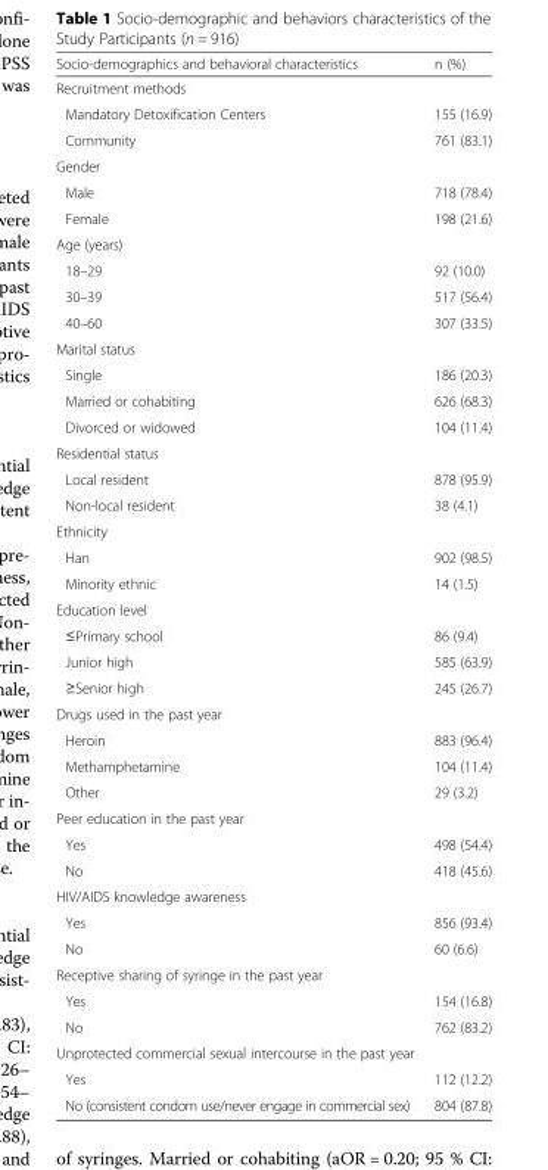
<table><thead><tr><td>Socio-demographics and behavioral characteristics</td><td>n (%)</td></tr></thead><tbody><tr><td colspan="2">Recruitment methods</td></tr><tr><td>Mandatory Detoxification Centers</td><td>155 (16.9)</td></tr><tr><td>Community</td><td>761 (83.1)</td></tr><tr><td colspan="2">Gender</td></tr><tr><td>Male</td><td>718 (78.4)</td></tr><tr><td>Female</td><td>198 (21.6)</td></tr><tr><td colspan="2">Age (years)</td></tr><tr><td>18–29</td><td>92 (10.0)</td></tr><tr><td>30–39</td><td>517 (56.4)</td></tr><tr><td>40–60</td><td>307 (33.5)</td></tr><tr><td colspan="2">Marital status</td></tr><tr><td>Single</td><td>186 (20.3)</td></tr><tr><td>Married or cohabiting</td><td>626 (68.3)</td></tr><tr><td>Divorced or widowed</td><td>104 (11.4)</td></tr><tr><td colspan="2">Residential status</td></tr><tr><td>Local resident</td><td>878 (95.9)</td></tr><tr><td>Non-local resident</td><td>38 (4.1)</td></tr><tr><td colspan="2">Ethnicity</td></tr><tr><td>Han</td><td>902 (98.5)</td></tr><tr><td>Minority ethnic</td><td>14 (1.5)</td></tr><tr><td colspan="2">Education level</td></tr><tr><td>≤Primary school</td><td>86 (9.4)</td></tr><tr><td>Junior high</td><td>585 (63.9)</td></tr><tr><td>≥Senior high</td><td>245 (26.7)</td></tr><tr><td colspan="2">Drugs used in the past year</td></tr><tr><td>Heroin</td><td>883 (96.4)</td></tr><tr><td>Methamphetamine</td><td>104 (11.4)</td></tr><tr><td>Other</td><td>29 (3.2)</td></tr><tr><td colspan="2">Peer education in the past year</td></tr><tr><td>Yes</td><td>498 (54.4)</td></tr><tr><td>No</td><td>418 (45.6)</td></tr><tr><td colspan="2">HIV/AIDS knowledge awareness</td></tr><tr><td>Yes</td><td>856 (93.4)</td></tr><tr><td>No</td><td>60 (6.6)</td></tr><tr><td colspan="2">Receptive sharing of syringe in the past year</td></tr><tr><td>Yes</td><td>154 (16.8)</td></tr><tr><td>No</td><td>762 (83.2)</td></tr><tr><td colspan="2">Unprotected commercial sexual intercourse in the past year</td></tr><tr><td>Yes</td><td>112 (12.2)</td></tr><tr><td>No (consistent condom use/never engage in commercial sex)</td><td>804 (87.8)</td></tr></tbody></table>